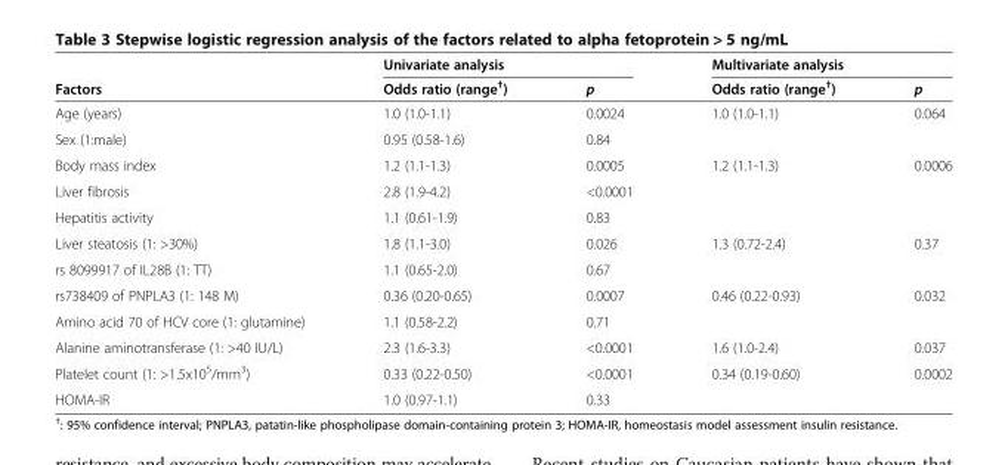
<table><thead><tr><td rowspan="2">Factors</td><td colspan="2">Univariate analysis</td><td colspan="2">Multivariate analysis</td></tr><tr><td>Odds ratio (range<sup>†</sup>)</td><td>p</td><td>Odds ratio (range<sup>†</sup>)</td><td>p</td></tr></thead><tbody><tr><td>Age (years)</td><td>1.0 (1.0-1.1)</td><td>0.0024</td><td>1.0 (1.0-1.1)</td><td>0.064</td></tr><tr><td>Sex (1:male)</td><td>0.95 (0.58-1.6)</td><td>0.84</td><td></td><td></td></tr><tr><td>Body mass index</td><td>1.2 (1.1-1.3)</td><td>0.0005</td><td>1.2 (1.1-1.3)</td><td>0.0006</td></tr><tr><td>Liver fibrosis</td><td>2.8 (1.9-4.2)</td><td>&lt;0.0001</td><td></td><td></td></tr><tr><td>Hepatitis activity</td><td>1.1 (0.61-1.9)</td><td>0.83</td><td></td><td></td></tr><tr><td>Liver steatosis (1: &gt;30%)</td><td>1.8 (1.1-3.0)</td><td>0.026</td><td>1.3 (0.72-2.4)</td><td>0.37</td></tr><tr><td>rs 8099917 of IL28B (1: TT)</td><td>1.1 (0.65-2.0)</td><td>0.67</td><td></td><td></td></tr><tr><td>rs738409 of PNPLA3 (1: 148 M)</td><td>0.36 (0.20-0.65)</td><td>0.0007</td><td>0.46 (0.22-0.93)</td><td>0.032</td></tr><tr><td>Amino acid 70 of HCV core (1: glutamine)</td><td>1.1 (0.58-2.2)</td><td>0.71</td><td></td><td></td></tr><tr><td>Alanine aminotransferase (1: &gt;40 IU/L)</td><td>2.3 (1.6-3.3)</td><td>&lt;0.0001</td><td>1.6 (1.0-2.4)</td><td>0.037</td></tr><tr><td>Platelet count (1: &gt;1.5x10<sup>5</sup>/mm<sup>3</sup>)</td><td>0.33 (0.22-0.50)</td><td>&lt;0.0001</td><td>0.34 (0.19-0.60)</td><td>0.0002</td></tr><tr><td>HOMA-IR</td><td>1.0 (0.97-1.1)</td><td>0.33</td><td></td><td></td></tr></tbody></table>